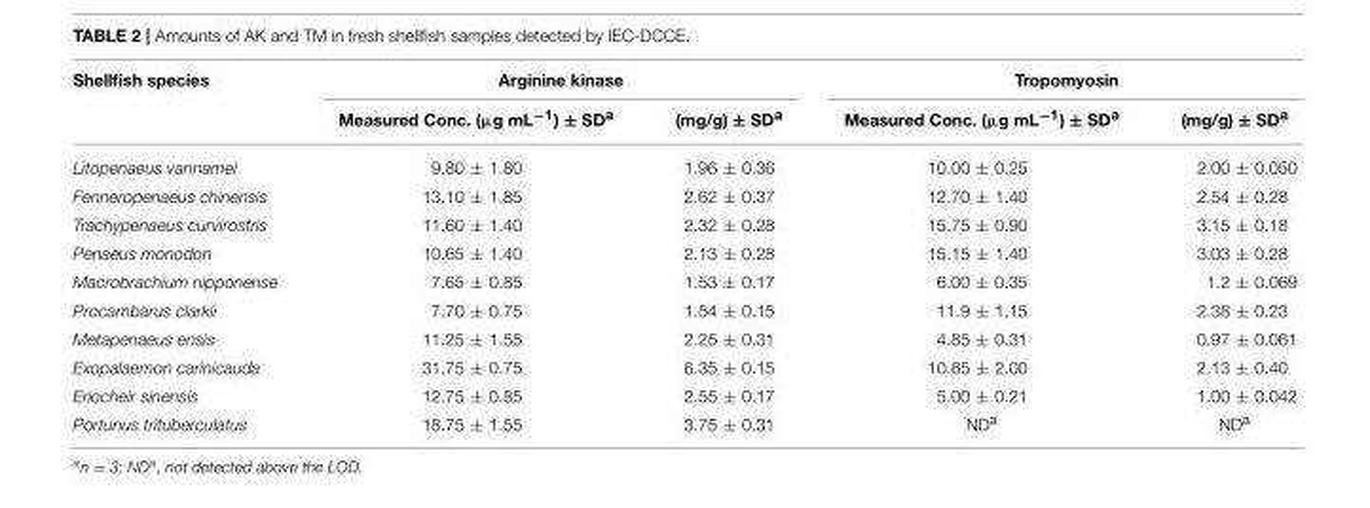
<table><thead><tr><td rowspan="2">Shellfish species</td><td colspan="2">Arginine kinase</td><td colspan="2">Tropomyosin</td></tr><tr><td>Measured Conc. (µg mL<sup>−1</sup>) ± SD<sup>a</sup></td><td>(mg/g) ± SD<sup>a</sup></td><td>Measured Conc. (µg mL<sup>−1</sup>) ± SD<sup>a</sup></td><td>(mg/g) ± SD<sup>a</sup></td></tr></thead><tbody><tr><td>Litopenaeus vannamei</td><td>9.80 ± 1.80</td><td>1.96 ± 0.36</td><td>10.00 ± 0.25</td><td>2.00 ± 0.050</td></tr><tr><td>Fenneropenaeus chinensis</td><td>13.10 ± 1.85</td><td>2.62 ± 0.37</td><td>12.70 ± 1.40</td><td>2.54 ± 0.28</td></tr><tr><td>Trachypenaeus curvirostris</td><td>11.60 ± 1.40</td><td>2.32 ± 0.28</td><td>15.75 ± 0.90</td><td>3.15 ± 0.18</td></tr><tr><td>Penaeus monodon</td><td>10.65 ± 1.40</td><td>2.13 ± 0.28</td><td>15.15 ± 1.40</td><td>3.03 ± 0.28</td></tr><tr><td>Macrobrachium nipponense</td><td>7.65 ± 0.85</td><td>1.53 ± 0.17</td><td>6.00 ± 0.35</td><td>1.2 ± 0.069</td></tr><tr><td>Procambarus clarkii</td><td>7.70 ± 0.75</td><td>1.54 ± 0.15</td><td>11.9 ± 1.15</td><td>2.38 ± 0.23</td></tr><tr><td>Metapenaeus ensis</td><td>11.25 ± 1.55</td><td>2.25 ± 0.31</td><td>4.85 ± 0.31</td><td>0.97 ± 0.061</td></tr><tr><td>Exopalaemon carinicauda</td><td>31.75 ± 0.75</td><td>6.35 ± 0.15</td><td>10.65 ± 2.00</td><td>2.13 ± 0.40</td></tr><tr><td>Eriocheir sinensis</td><td>12.75 ± 0.85</td><td>2.55 ± 0.17</td><td>5.00 ± 0.21</td><td>1.00 ± 0.042</td></tr><tr><td>Portunus trituberculatus</td><td>18.75 ± 1.55</td><td>3.75 ± 0.31</td><td>ND<sup>a</sup></td><td>ND<sup>a</sup></td></tr></tbody></table>